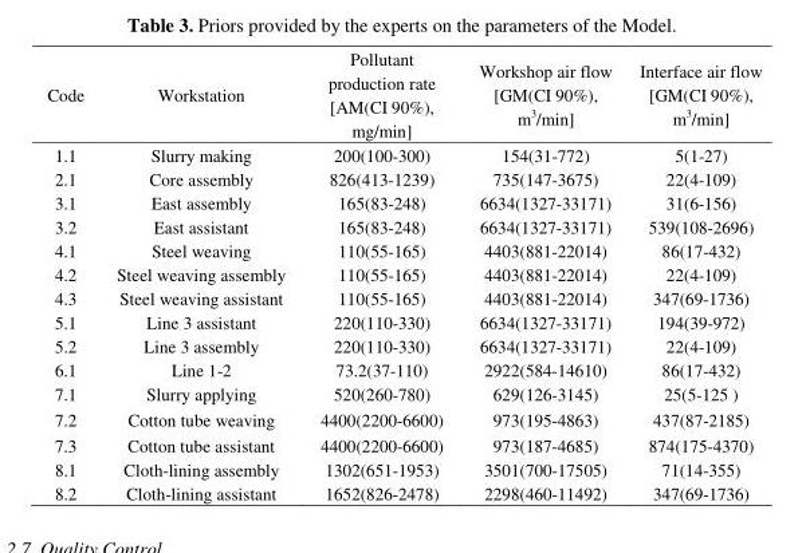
<table><thead><tr><td>Code</td><td>Workstation</td><td>Pollutant production rate [AM(CI 90%), mg/min]</td><td>Workshop air flow [GM(CI 90%), m<sup>3</sup>/min]</td><td>Interface air flow [GM(CI 90%), m<sup>3</sup>/min]</td></tr></thead><tbody><tr><td>1.1</td><td>Slurry making</td><td>200(100-300)</td><td>154(31-772)</td><td>5(1-27)</td></tr><tr><td>2.1</td><td>Core assembly</td><td>826(413-1239)</td><td>735(147-3675)</td><td>22(4-109)</td></tr><tr><td>3.1</td><td>East assembly</td><td>165(83-248)</td><td>6634(1327-33171)</td><td>31(6-156)</td></tr><tr><td>3.2</td><td>East assistant</td><td>165(83-248)</td><td>6634(1327-33171)</td><td>539(108-2696)</td></tr><tr><td>4.1</td><td>Steel weaving</td><td>110(55-165)</td><td>4403(881-22014)</td><td>86(17-432)</td></tr><tr><td>4.2</td><td>Steel weaving assembly</td><td>110(55-165)</td><td>4403(881-22014)</td><td>22(4-109)</td></tr><tr><td>4.3</td><td>Steel weaving assistant</td><td>110(55-165)</td><td>4403(881-22014)</td><td>347(69-1736)</td></tr><tr><td>5.1</td><td>Line 3 assistant</td><td>220(110-330)</td><td>6634(1327-33171)</td><td>194(39-972)</td></tr><tr><td>5.2</td><td>Line 3 assembly</td><td>220(110-330)</td><td>6634(1327-33171)</td><td>22(4-109)</td></tr><tr><td>6.1</td><td>Line 1-2</td><td>73.2(37-110)</td><td>2922(584-14610)</td><td>86(17-432)</td></tr><tr><td>7.1</td><td>Slurry applying</td><td>520(260-780)</td><td>629(126-3145)</td><td>25(5-125 )</td></tr><tr><td>7.2</td><td>Cotton tube weaving</td><td>4400(2200-6600)</td><td>973(195-4863)</td><td>437(87-2185)</td></tr><tr><td>7.3</td><td>Cotton tube assistant</td><td>4400(2200-6600)</td><td>973(187-4685)</td><td>874(175-4370)</td></tr><tr><td>8.1</td><td>Cloth-lining assembly</td><td>1302(651-1953)</td><td>3501(700-17505)</td><td>71(14-355)</td></tr><tr><td>8.2</td><td>Cloth-lining assistant</td><td>1652(826-2478)</td><td>2298(460-11492)</td><td>347(69-1736)</td></tr></tbody></table>